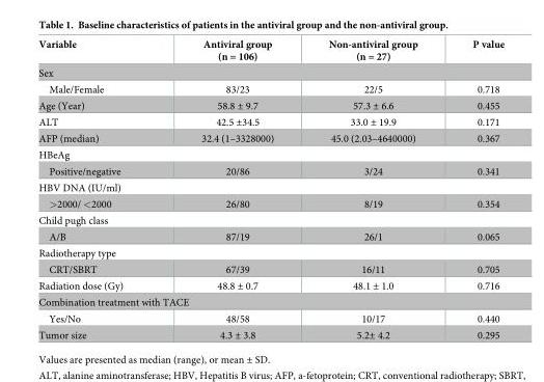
<table><thead><tr><td>Variable</td><td>Antiviral group (n = 106)</td><td>Non-antiviral group (n = 27)</td><td>P value</td></tr></thead><tbody><tr><td colspan="4">Sex</td></tr><tr><td>Male/Female</td><td>83/23</td><td>22/5</td><td>0.718</td></tr><tr><td>Age (Year)</td><td>58.8 ± 9.7</td><td>57.3 ± 6.6</td><td>0.455</td></tr><tr><td>ALT</td><td>42.5 ±34.5</td><td>33.0 ± 19.9</td><td>0.171</td></tr><tr><td>AFP (median)</td><td>32.4 (1–3328000)</td><td>45.0 (2.03–4640000)</td><td>0.367</td></tr><tr><td colspan="4">HBeAg</td></tr><tr><td>Positive/negative</td><td>20/86</td><td>3/24</td><td>0.341</td></tr><tr><td colspan="4">HBV DNA (IU/ml)</td></tr><tr><td>&gt;2000/ &lt;2000</td><td>26/80</td><td>8/19</td><td>0.354</td></tr><tr><td colspan="4">Child pugh class</td></tr><tr><td>A/B</td><td>87/19</td><td>26/1</td><td>0.065</td></tr><tr><td colspan="4">Radiotherapy type</td></tr><tr><td>CRT/SBRT</td><td>67/39</td><td>16/11</td><td>0.705</td></tr><tr><td>Radiation dose (Gy)</td><td>48.8 ± 0.7</td><td>48.1 ± 1.0</td><td>0.716</td></tr><tr><td colspan="4">Combination treatment with TACE</td></tr><tr><td>Yes/No</td><td>48/58</td><td>10/17</td><td>0.440</td></tr><tr><td>Tumor size</td><td>4.3 ± 3.8</td><td>5.2± 4.2</td><td>0.295</td></tr></tbody></table>